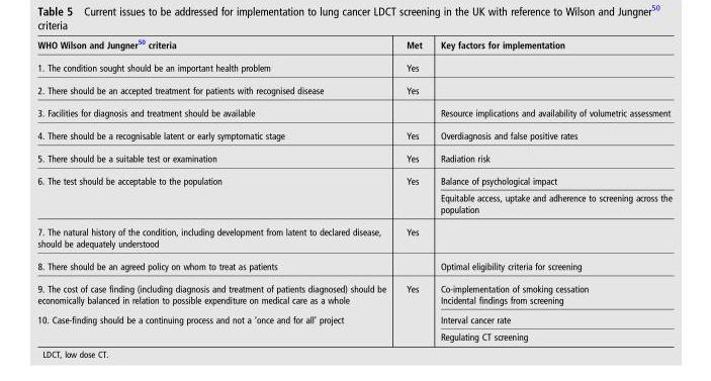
<table><thead><tr><td>WHO Wilson and Jungner<sup>50</sup> criteria</td><td>Met</td><td>Key factors for implementation</td></tr></thead><tbody><tr><td>1. The condition sought should be an important health problem</td><td>Yes</td><td></td></tr><tr><td>2. There should be an accepted treatment for patients with recognised disease</td><td>Yes</td><td></td></tr><tr><td>3. Facilities for diagnosis and treatment should be available</td><td></td><td>Resource implications and availability of volumetric assessment</td></tr><tr><td>4. There should be a recognisable latent or early symptomatic stage</td><td>Yes</td><td>Overdiagnosis and false positive rates</td></tr><tr><td>5. There should be a suitable test or examination</td><td>Yes</td><td>Radiation risk</td></tr><tr><td rowspan="2">6. The test should be acceptable to the population</td><td rowspan="2">Yes</td><td>Balance of psychological impact</td></tr><tr><td>Equitable access, uptake and adherence to screening across the population</td></tr><tr><td>7. The natural history of the condition, including development from latent to declared disease, should be adequately understood</td><td>Yes</td><td></td></tr><tr><td>8. There should be an agreed policy on whom to treat as patients</td><td></td><td>Optimal eligibility criteria for screening</td></tr><tr><td rowspan="2">9. The cost of case finding (including diagnosis and treatment of patients diagnosed) should be economically balanced in relation to possible expenditure on medical care as a whole</td><td rowspan="2">Yes</td><td>Co-implementation of smoking cessation</td></tr><tr><td>Incidental findings from screening</td></tr><tr><td rowspan="2">10. Case-finding should be a continuing process and not a ‘once and for all’ project</td><td rowspan="2"></td><td>Interval cancer rate</td></tr><tr><td>Regulating CT screening</td></tr></tbody></table>